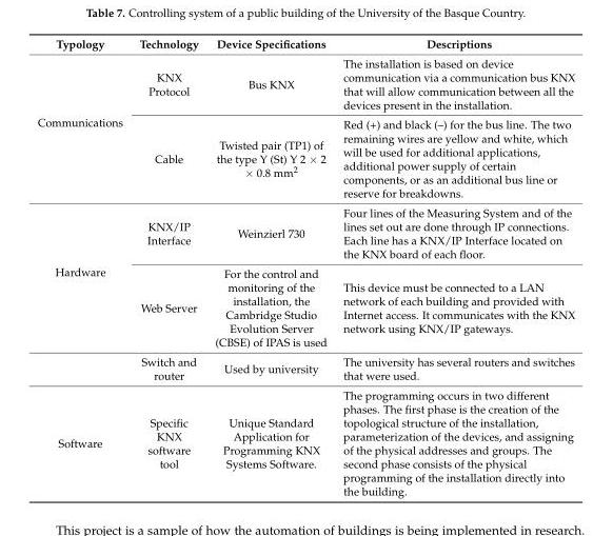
<table><thead><tr><td>Typology</td><td>Technology</td><td>Device Specifications</td><td>Descriptions</td></tr></thead><tbody><tr><td rowspan="2">Communications</td><td>KNX Protocol</td><td>Bus KNX</td><td>The installation is based on device communication via a communication bus KNX that will allow communication between all the devices present in the installation.</td></tr><tr><td>Cable</td><td>Twisted pair (TP1) of the type Y (St) Y 2 × 2 × 0.8 mm<sup>2</sup></td><td>Red (+) and black (–) for the bus line. The two remaining wires are yellow and white, which will be used for additional applications, additional power supply of certain components, or as an additional bus line or reserve for breakdowns.</td></tr><tr><td rowspan="3">Hardware</td><td>KNX/IP Interface</td><td>Weinzierl 730</td><td>Four lines of the Measuring System and of the lines set out are done through IP connections. Each line has a KNX/IP Interface located on the KNX board of each floor.</td></tr><tr><td>Web Server</td><td>For the control and monitoring of the installation, the Cambridge Studio Evolution Server (CBSE) of IPAS is used</td><td>This device must be connected to a LAN network of each building and provided with Internet access. It communicates with the KNX network using KNX/IP gateways.</td></tr><tr><td>Switch and router</td><td>Used by university</td><td>The university has several routers and switches that were used.</td></tr><tr><td>Software</td><td>Specific KNX software tool</td><td>Unique Standard Application for Programming KNX Systems Software.</td><td>The programming occurs in two different phases. The first phase is the creation of the topological structure of the installation, parameterization of the devices, and assigning of the physical addresses and groups. The second phase consists of the physical programming of the installation directly into the building.</td></tr></tbody></table>